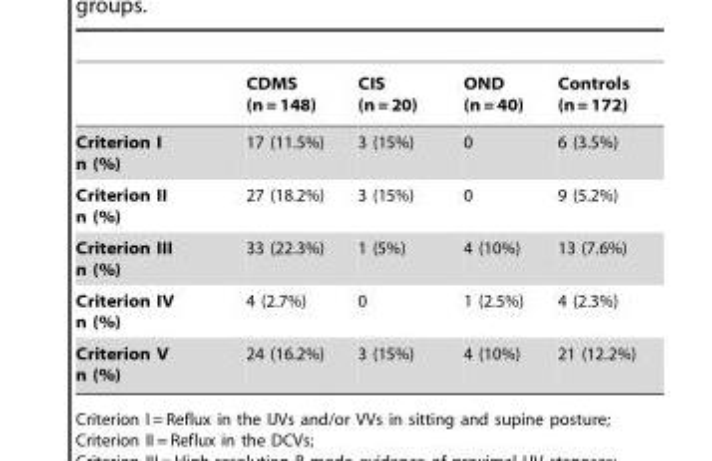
<table><thead><tr><td></td><td>CDMS (n = 148)</td><td>CIS (n = 20)</td><td>OND (n = 40)</td><td>Controls (n = 172)</td></tr></thead><tbody><tr><td>Criterion I n (%)</td><td>17 (11.5%)</td><td>3 (15%)</td><td>0</td><td>6 (3.5%)</td></tr><tr><td>Criterion II n (%)</td><td>27 (18.2%)</td><td>3 (15%)</td><td>0</td><td>9 (5.2%)</td></tr><tr><td>Criterion III n (%)</td><td>33 (22.3%)</td><td>1 (5%)</td><td>4 (10%)</td><td>13 (7.6%)</td></tr><tr><td>Criterion IV n (%)</td><td>4 (2.7%)</td><td>0</td><td>1 (2.5%)</td><td>4 (2.3%)</td></tr><tr><td>Criterion V n (%)</td><td>24 (16.2%)</td><td>3 (15%)</td><td>4 (10%)</td><td>21 (12.2%)</td></tr></tbody></table>